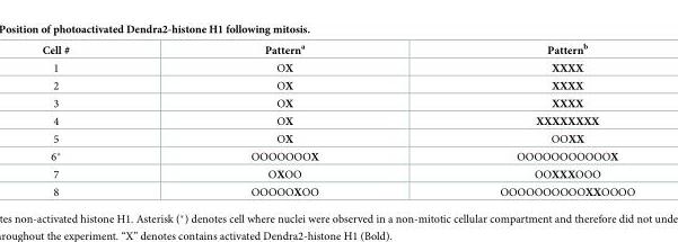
<table><thead><tr><td>Cell #</td><td>Pattern<sup>a</sup></td><td>Pattern<sup>b</sup></td></tr></thead><tbody><tr><td>1</td><td>OX</td><td>XXXX</td></tr><tr><td>2</td><td>OX</td><td>XXXX</td></tr><tr><td>3</td><td>OX</td><td>XXXX</td></tr><tr><td>4</td><td>OX</td><td>XXXXXXXX</td></tr><tr><td>5</td><td>OX</td><td>OOXX</td></tr><tr><td>6*</td><td>OOOOOOOX</td><td>OOOOOOOOOOOX</td></tr><tr><td>7</td><td>OXOO</td><td>OOXXXOOO</td></tr><tr><td>8</td><td>OOOOOXOO</td><td>OOOOOOOOOOXXOOOO</td></tr></tbody></table>